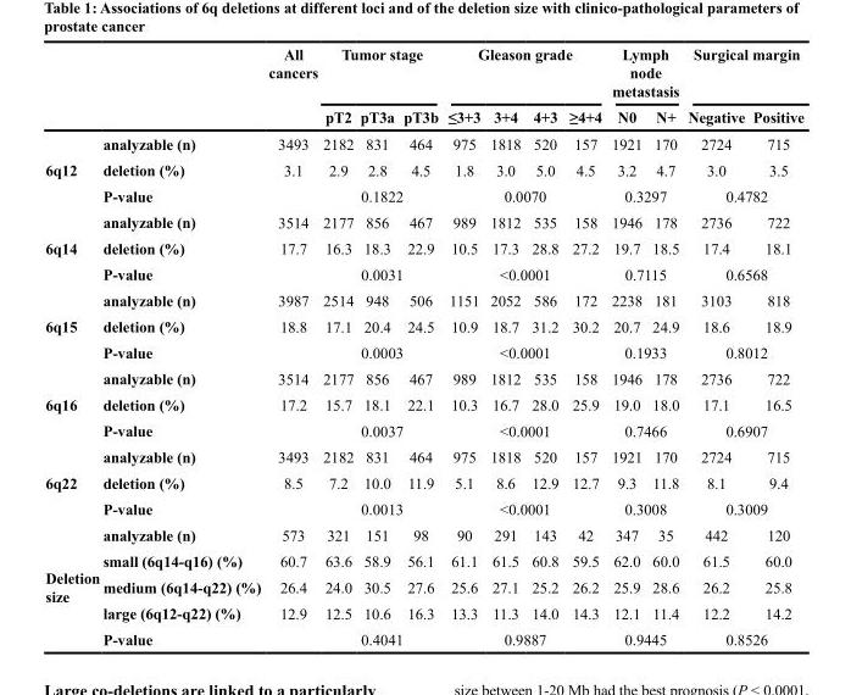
<table><thead><tr><td rowspan="2"></td><td rowspan="2"></td><td rowspan="2">All cancers</td><td colspan="3">Tumor stage</td><td colspan="4">Gleason grade</td><td colspan="2">Lymph node metastasis</td><td colspan="2">Surgical margin</td></tr><tr><td>pT2</td><td>pT3a</td><td>pT3b</td><td>≤3+3</td><td>3+4</td><td>4+3</td><td>≥4+4</td><td>N0</td><td>N+</td><td>Negative</td><td>Positive</td></tr></thead><tbody><tr><td rowspan="3">6q12</td><td>analyzable (n)</td><td>3493</td><td>2182</td><td>831</td><td>464</td><td>975</td><td>1818</td><td>520</td><td>157</td><td>1921</td><td>170</td><td>2724</td><td>715</td></tr><tr><td>deletion (%)</td><td>3.1</td><td>2.9</td><td>2.8</td><td>4.5</td><td>1.8</td><td>3.0</td><td>5.0</td><td>4.5</td><td>3.2</td><td>4.7</td><td>3.0</td><td>3.5</td></tr><tr><td>P-value</td><td></td><td colspan="3">0.1822</td><td colspan="4">0.0070</td><td colspan="2">0.3297</td><td colspan="2">0.4782</td></tr><tr><td rowspan="3">6q14</td><td>analyzable (n)</td><td>3514</td><td>2177</td><td>856</td><td>467</td><td>989</td><td>1812</td><td>535</td><td>158</td><td>1946</td><td>178</td><td>2736</td><td>722</td></tr><tr><td>deletion (%)</td><td>17.7</td><td>16.3</td><td>18.3</td><td>22.9</td><td>10.5</td><td>17.3</td><td>28.8</td><td>27.2</td><td>19.7</td><td>18.5</td><td>17.4</td><td>18.1</td></tr><tr><td>P-value</td><td></td><td colspan="3">0.0031</td><td colspan="4">&lt;0.0001</td><td colspan="2">0.7115</td><td colspan="2">0.6568</td></tr><tr><td rowspan="3">6q15</td><td>analyzable (n)</td><td>3987</td><td>2514</td><td>948</td><td>506</td><td>1151</td><td>2052</td><td>586</td><td>172</td><td>2238</td><td>181</td><td>3103</td><td>818</td></tr><tr><td>deletion (%)</td><td>18.8</td><td>17.1</td><td>20.4</td><td>24.5</td><td>10.9</td><td>18.7</td><td>31.2</td><td>30.2</td><td>20.7</td><td>24.9</td><td>18.6</td><td>18.9</td></tr><tr><td>P-value</td><td></td><td colspan="3">0.0003</td><td colspan="4">&lt;0.0001</td><td colspan="2">0.1933</td><td colspan="2">0.8012</td></tr><tr><td rowspan="3">6q16</td><td>analyzable (n)</td><td>3514</td><td>2177</td><td>856</td><td>467</td><td>989</td><td>1812</td><td>535</td><td>158</td><td>1946</td><td>178</td><td>2736</td><td>722</td></tr><tr><td>deletion (%)</td><td>17.2</td><td>15.7</td><td>18.1</td><td>22.1</td><td>10.3</td><td>16.7</td><td>28.0</td><td>25.9</td><td>19.0</td><td>18.0</td><td>17.1</td><td>16.5</td></tr><tr><td>P-value</td><td></td><td colspan="3">0.0037</td><td colspan="4">&lt;0.0001</td><td colspan="2">0.7466</td><td colspan="2">0.6907</td></tr><tr><td rowspan="3">6q22</td><td>analyzable (n)</td><td>3493</td><td>2182</td><td>831</td><td>464</td><td>975</td><td>1818</td><td>520</td><td>157</td><td>1921</td><td>170</td><td>2724</td><td>715</td></tr><tr><td>deletion (%)</td><td>8.5</td><td>7.2</td><td>10.0</td><td>11.9</td><td>5.1</td><td>8.6</td><td>12.9</td><td>12.7</td><td>9.3</td><td>11.8</td><td>8.1</td><td>9.4</td></tr><tr><td>P-value</td><td></td><td colspan="3">0.0013</td><td colspan="4">&lt;0.0001</td><td colspan="2">0.3008</td><td colspan="2">0.3009</td></tr><tr><td rowspan="5">Deletion size</td><td>analyzable (n)</td><td>573</td><td>321</td><td>151</td><td>98</td><td>90</td><td>291</td><td>143</td><td>42</td><td>347</td><td>35</td><td>442</td><td>120</td></tr><tr><td>small (6q14-q16) (%)</td><td>60.7</td><td>63.6</td><td>58.9</td><td>56.1</td><td>61.1</td><td>61.5</td><td>60.8</td><td>59.5</td><td>62.0</td><td>60.0</td><td>61.5</td><td>60.0</td></tr><tr><td>medium (6q14-q22) (%)</td><td>26.4</td><td>24.0</td><td>30.5</td><td>27.6</td><td>25.6</td><td>27.1</td><td>25.2</td><td>26.2</td><td>25.9</td><td>28.6</td><td>26.2</td><td>25.8</td></tr><tr><td>large (6q12-q22) (%)</td><td>12.9</td><td>12.5</td><td>10.6</td><td>16.3</td><td>13.3</td><td>11.3</td><td>14.0</td><td>14.3</td><td>12.1</td><td>11.4</td><td>12.2</td><td>14.2</td></tr><tr><td>P-value</td><td></td><td colspan="3">0.4041</td><td colspan="4">0.9887</td><td colspan="2">0.9445</td><td colspan="2">0.8526</td></tr></tbody></table>